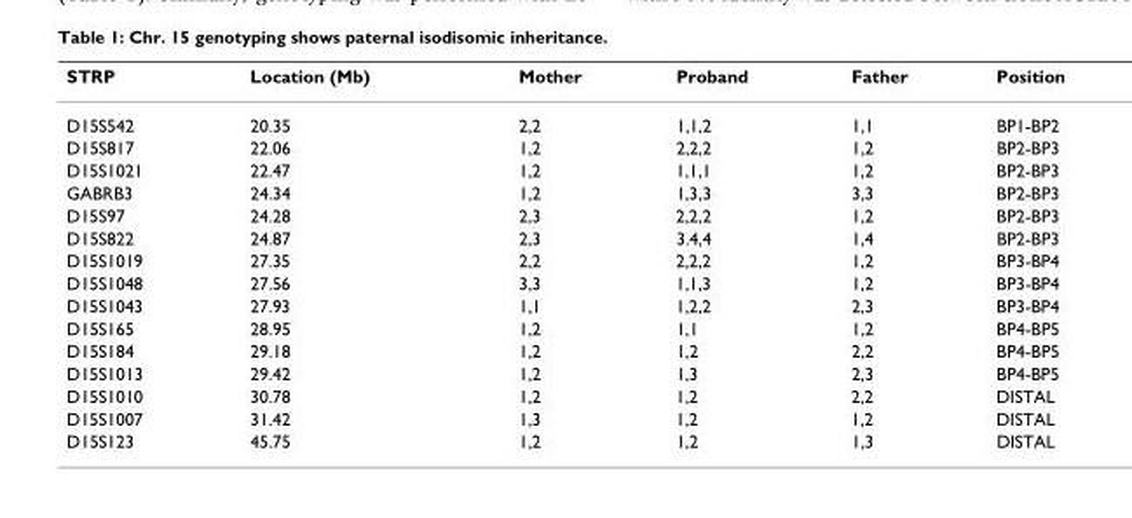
<table><thead><tr><td>STRP</td><td>Location (Mb)</td><td>Mother</td><td>Proband</td><td>Father</td><td>Position</td></tr></thead><tbody><tr><td>D15S542</td><td>20.35</td><td>2,2</td><td>1,1,2</td><td>1,1</td><td>BP1-BP2</td></tr><tr><td>D15S817</td><td>22.06</td><td>1,2</td><td>2,2,2</td><td>1,2</td><td>BP2-BP3</td></tr><tr><td>D15S1021</td><td>22.47</td><td>1,2</td><td>1,1,1</td><td>1,2</td><td>BP2-BP3</td></tr><tr><td>GABRB3</td><td>24.34</td><td>1,2</td><td>1,3,3</td><td>3,3</td><td>BP2-BP3</td></tr><tr><td>D15S97</td><td>24.28</td><td>2,3</td><td>2,2,2</td><td>1,2</td><td>BP2-BP3</td></tr><tr><td>D15S822</td><td>24.87</td><td>2,3</td><td>3.4,4</td><td>1,4</td><td>BP2-BP3</td></tr><tr><td>D15S1019</td><td>27.35</td><td>2,2</td><td>2,2,2</td><td>1,2</td><td>BP3-BP4</td></tr><tr><td>D15S1048</td><td>27.56</td><td>3,3</td><td>1,1,3</td><td>1,2</td><td>BP3-BP4</td></tr><tr><td>D15S1043</td><td>27.93</td><td>1,1</td><td>1,2,2</td><td>2,3</td><td>BP3-BP4</td></tr><tr><td>D15S165</td><td>28.95</td><td>1,2</td><td>1,1</td><td>1,2</td><td>BP4-BP5</td></tr><tr><td>D15S184</td><td>29.18</td><td>1,2</td><td>1,2</td><td>2,2</td><td>BP4-BP5</td></tr><tr><td>D15S1013</td><td>29.42</td><td>1,2</td><td>1,3</td><td>2,3</td><td>BP4-BP5</td></tr><tr><td>D15S1010</td><td>30.78</td><td>1,2</td><td>1,2</td><td>2,2</td><td>DISTAL</td></tr><tr><td>D15S1007</td><td>31.42</td><td>1,3</td><td>1,2</td><td>1,2</td><td>DISTAL</td></tr><tr><td>D15S123</td><td>45.75</td><td>1,2</td><td>1,2</td><td>1,3</td><td>DISTAL</td></tr></tbody></table>